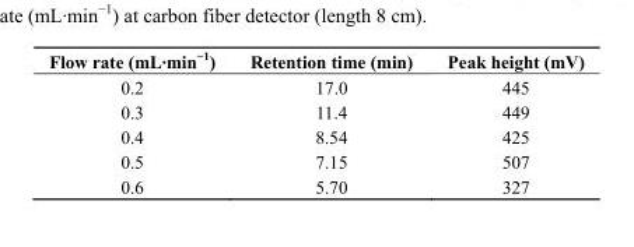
<table><thead><tr><td>Flow rate (mL·min<sup>−1</sup>)</td><td>Retention time (min)</td><td>Peak height (mV)</td></tr></thead><tbody><tr><td>0.2</td><td>17.0</td><td>445</td></tr><tr><td>0.3</td><td>11.4</td><td>449</td></tr><tr><td>0.4</td><td>8.54</td><td>425</td></tr><tr><td>0.5</td><td>7.15</td><td>507</td></tr><tr><td>0.6</td><td>5.70</td><td>327</td></tr></tbody></table>